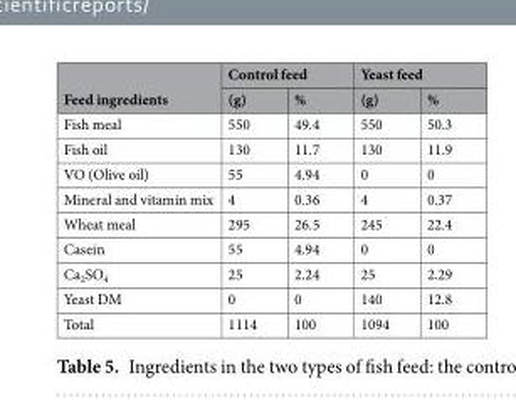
<table><thead><tr><td rowspan="2">Feed ingredients</td><td colspan="2">Control feed</td><td colspan="2">Yeast feed</td></tr><tr><td>(g)</td><td>%</td><td>(g)</td><td>%</td></tr></thead><tbody><tr><td>Fish meal</td><td>550</td><td>49.4</td><td>550</td><td>50.3</td></tr><tr><td>Fish oil</td><td>130</td><td>11.7</td><td>130</td><td>11.9</td></tr><tr><td>VO (Olive oil)</td><td>55</td><td>4.94</td><td>0</td><td>0</td></tr><tr><td>Mineral and vitamin mix</td><td>4</td><td>0.36</td><td>4</td><td>0.37</td></tr><tr><td>Wheat meal</td><td>295</td><td>26.5</td><td>245</td><td>22.4</td></tr><tr><td>Casein</td><td>55</td><td>4.94</td><td>0</td><td>0</td></tr><tr><td>Ca<sub>2</sub>SO<sub>4</sub></td><td>25</td><td>2.24</td><td>25</td><td>2.29</td></tr><tr><td>Yeast DM</td><td>0</td><td>0</td><td>140</td><td>12.8</td></tr><tr><td>Total</td><td>1114</td><td>100</td><td>1094</td><td>100</td></tr></tbody></table>